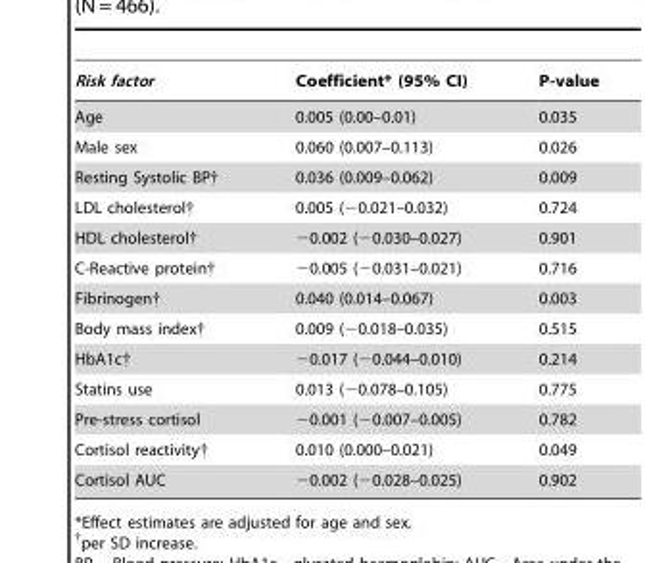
<table><thead><tr><td>Risk factor</td><td>Coefficient* (95% CI)</td><td>P-value</td></tr></thead><tbody><tr><td>Age</td><td>0.005 (0.00–0.01)</td><td>0.035</td></tr><tr><td>Male sex</td><td>0.060 (0.007–0.113)</td><td>0.026</td></tr><tr><td>Resting Systolic BP†</td><td>0.036 (0.009–0.062)</td><td>0.009</td></tr><tr><td>LDL cholesterol†</td><td>0.005 (−0.021–0.032)</td><td>0.724</td></tr><tr><td>HDL cholesterol†</td><td>−0.002 (−0.030–0.027)</td><td>0.901</td></tr><tr><td>C-Reactive protein†</td><td>−0.005 (−0.031–0.021)</td><td>0.716</td></tr><tr><td>Fibrinogen†</td><td>0.040 (0.014–0.067)</td><td>0.003</td></tr><tr><td>Body mass index†</td><td>0.009 (−0.018–0.035)</td><td>0.515</td></tr><tr><td>HbA1c†</td><td>−0.017 (−0.044–0.010)</td><td>0.214</td></tr><tr><td>Statins use</td><td>0.013 (−0.078–0.105)</td><td>0.775</td></tr><tr><td>Pre-stress cortisol</td><td>−0.001 (−0.007–0.005)</td><td>0.782</td></tr><tr><td>Cortisol reactivity†</td><td>0.010 (0.000–0.021)</td><td>0.049</td></tr><tr><td>Cortisol AUC</td><td>−0.002 (−0.028–0.025)</td><td>0.902</td></tr></tbody></table>